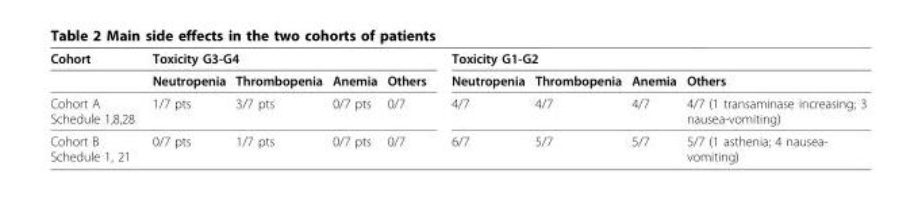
<table><tbody><tr><td rowspan="2">Cohort</td><td colspan="4">Toxicity G3-G4</td><td colspan="4">Toxicity G1-G2</td></tr><tr><td>Neutropenia</td><td>Thrombopenia</td><td>Anemia</td><td>Others</td><td>Neutropenia</td><td>Thrombopenia</td><td>Anemia</td><td>Others</td></tr><tr><td>Cohort A Schedule 1,8,28</td><td>1/7 pts</td><td>3/7 pts</td><td>0/7 pts</td><td>0/7</td><td>4/7</td><td>4/7</td><td>4/7</td><td>4/7 (1 transaminase increasing; 3 nausea-vomiting)</td></tr><tr><td>Cohort B Schedule 1, 21</td><td>0/7 pts</td><td>1/7 pts</td><td>0/7 pts</td><td>0/7</td><td>6/7</td><td>5/7</td><td>5/7</td><td>5/7 (1 asthenia; 4 nausea- vomiting)</td></tr></tbody></table>